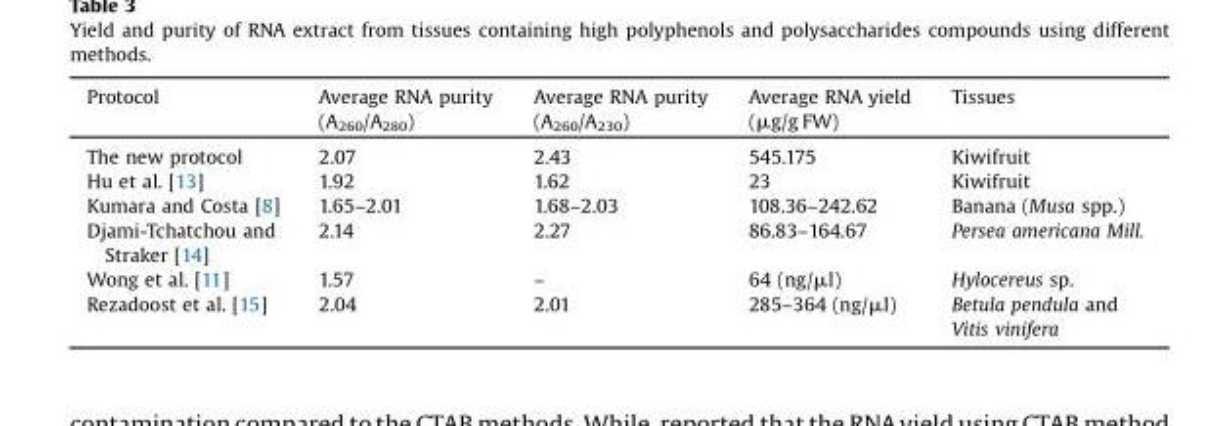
<table><thead><tr><td>Protocol</td><td>Average RNA purity (A<sub>260</sub>/A<sub>280</sub>)</td><td>Average RNA purity (A<sub>260</sub>/A<sub>230</sub>)</td><td>Average RNA yield (μg/g FW)</td><td>Tissues</td></tr></thead><tbody><tr><td>The new protocol</td><td>2.07</td><td>2.43</td><td>545.175</td><td>Kiwifruit</td></tr><tr><td>Hu et al. [13]</td><td>1.92</td><td>1.62</td><td>23</td><td>Kiwifruit</td></tr><tr><td>Kumara and Costa [8]</td><td>1.65–2.01</td><td>1.68–2.03</td><td>108.36–242.62</td><td>Banana (Musa spp.)</td></tr><tr><td>Djami-Tchatchou and Straker [14]</td><td>2.14</td><td>2.27</td><td>86.83–164.67</td><td>Persea americana Mill.</td></tr><tr><td>Wong et al. [11]</td><td>1.57</td><td>–</td><td>64 (ng/μl)</td><td>Hylocereus sp.</td></tr><tr><td>Rezadoost et al. [15]</td><td>2.04</td><td>2.01</td><td>285–364 (ng/μl)</td><td>Betula pendula and Vitis vinifera</td></tr></tbody></table>